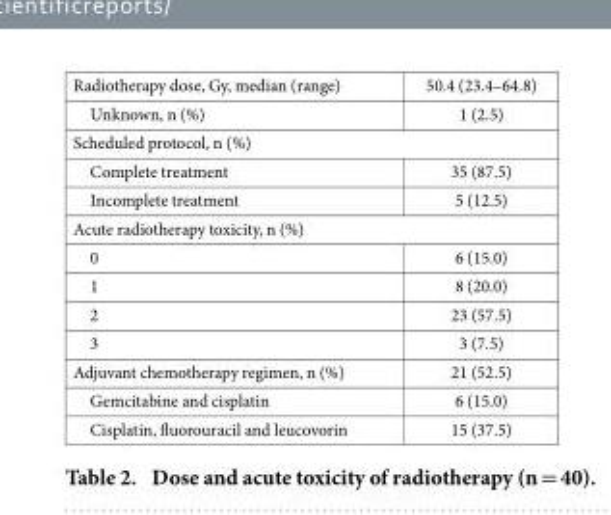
<table><tbody><tr><td>Radiotherapy dose, Gy, median (range)</td><td>50.4 (23.4–64.8)</td></tr><tr><td>Unknown, n (%)</td><td>1 (2.5)</td></tr><tr><td colspan="2">Scheduled protocol, n (%)</td></tr><tr><td>Complete treatment</td><td>35 (87.5)</td></tr><tr><td>Incomplete treatment</td><td>5 (12.5)</td></tr><tr><td colspan="2">Acute radiotherapy toxicity, n (%)</td></tr><tr><td>0</td><td>6 (15.0)</td></tr><tr><td>1</td><td>8 (20.0)</td></tr><tr><td>2</td><td>23 (57.5)</td></tr><tr><td>3</td><td>3 (7.5)</td></tr><tr><td>Adjuvant chemotherapy regimen, n (%)</td><td>21 (52.5)</td></tr><tr><td>Gemcitabine and cisplatin</td><td>6 (15.0)</td></tr><tr><td>Cisplatin, fluorouracil and leucovorin</td><td>15 (37.5)</td></tr></tbody></table>